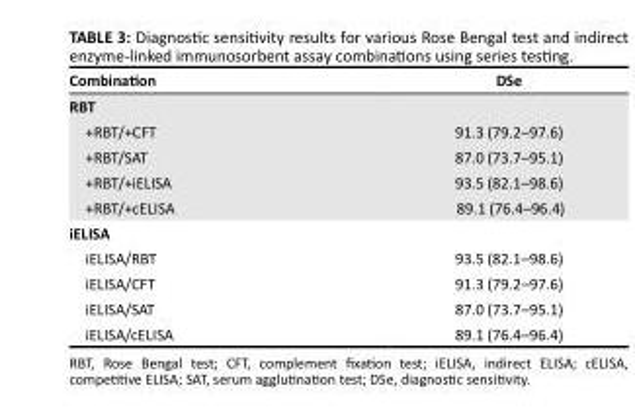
<table><thead><tr><td>Combination</td><td>DSe</td></tr></thead><tbody><tr><td colspan="2">RBT</td></tr><tr><td>+RBT/+CFT</td><td>91.3 (79.2–97.6)</td></tr><tr><td>+RBT/SAT</td><td>87.0 (73.7–95.1)</td></tr><tr><td>+RBT/+iELISA</td><td>93.5 (82.1–98.6)</td></tr><tr><td>+RBT/+cELISA</td><td>89.1 (76.4–96.4)</td></tr><tr><td colspan="2">iELISA</td></tr><tr><td>iELISA/RBT</td><td>93.5 (82.1–98.6)</td></tr><tr><td>iELISA/CFT</td><td>91.3 (79.2–97.6)</td></tr><tr><td>iELISA/SAT</td><td>87.0 (73.7–95.1)</td></tr><tr><td>iELISA/cELISA</td><td>89.1 (76.4–96.4)</td></tr></tbody></table>